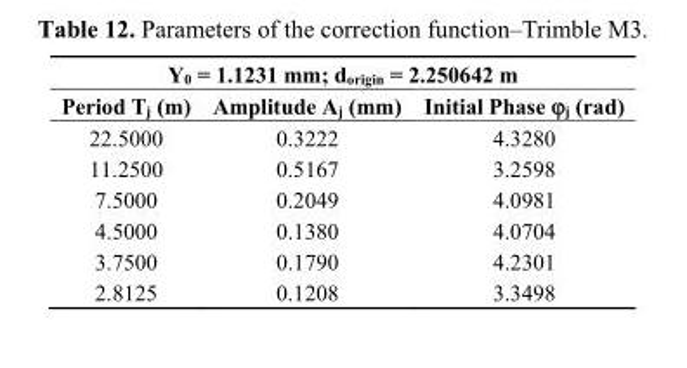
<table><thead><tr><td colspan="3">Y<sub>0</sub> = 1.1231 mm; d<sub>origin</sub> = 2.250642 m</td></tr><tr><td>Period T<sub>j</sub> (m)</td><td>Amplitude A<sub>j</sub> (mm)</td><td>Initial Phase ϕ<sub>j</sub> (rad)</td></tr></thead><tbody><tr><td>22.5000</td><td>0.3222</td><td>4.3280</td></tr><tr><td>11.2500</td><td>0.5167</td><td>3.2598</td></tr><tr><td>7.5000</td><td>0.2049</td><td>4.0981</td></tr><tr><td>4.5000</td><td>0.1380</td><td>4.0704</td></tr><tr><td>3.7500</td><td>0.1790</td><td>4.2301</td></tr><tr><td>2.8125</td><td>0.1208</td><td>3.3498</td></tr></tbody></table>